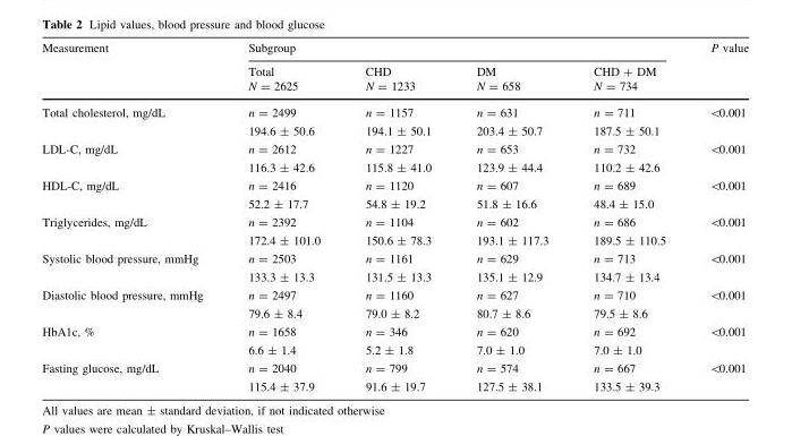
<table><thead><tr><td rowspan="2">Measurement</td><td colspan="4">Subgroup</td><td rowspan="2">P value</td></tr><tr><td>Total N = 2625</td><td>CHD N = 1233</td><td>DM N = 658</td><td>CHD + DM N = 734</td></tr></thead><tbody><tr><td rowspan="2">Total cholesterol, mg/dL</td><td>n = 2499</td><td>n = 1157</td><td>n = 631</td><td>n = 711</td><td rowspan="2">&lt;0.001</td></tr><tr><td>194.6 ± 50.6</td><td>194.1 ± 50.1</td><td>203.4 ± 50.7</td><td>187.5 ± 50.1</td></tr><tr><td rowspan="2">LDL-C, mg/dL</td><td>n = 2612</td><td>n = 1227</td><td>n = 653</td><td>n = 732</td><td rowspan="2">&lt;0.001</td></tr><tr><td>116.3 ± 42.6</td><td>115.8 ± 41.0</td><td>123.9 ± 44.4</td><td>110.2 ± 42.6</td></tr><tr><td rowspan="2">HDL-C, mg/dL</td><td>n = 2416</td><td>n = 1120</td><td>n = 607</td><td>n = 689</td><td rowspan="2">&lt;0.001</td></tr><tr><td>52.2 ± 17.7</td><td>54.8 ± 19.2</td><td>51.8 ± 16.6</td><td>48.4 ± 15.0</td></tr><tr><td rowspan="2">Triglycerides, mg/dL</td><td>n = 2392</td><td>n = 1104</td><td>n = 602</td><td>n = 686</td><td rowspan="2">&lt;0.001</td></tr><tr><td>172.4 ± 101.0</td><td>150.6 ± 78.3</td><td>193.1 ± 117.3</td><td>189.5 ± 110.5</td></tr><tr><td rowspan="2">Systolic blood pressure, mmHg</td><td>n = 2503</td><td>n = 1161</td><td>n = 629</td><td>n = 713</td><td rowspan="2">&lt;0.001</td></tr><tr><td>133.3 ± 13.3</td><td>131.5 ± 13.3</td><td>135.1 ± 12.9</td><td>134.7 ± 13.4</td></tr><tr><td rowspan="2">Diastolic blood pressure, mmHg</td><td>n = 2497</td><td>n = 1160</td><td>n = 627</td><td>n = 710</td><td rowspan="2">&lt;0.001</td></tr><tr><td>79.6 ± 8.4</td><td>79.0 ± 8.2</td><td>80.7 ± 8.6</td><td>79.5 ± 8.6</td></tr><tr><td rowspan="2">HbA1c, %</td><td>n = 1658</td><td>n = 346</td><td>n = 620</td><td>n = 692</td><td rowspan="2">&lt;0.001</td></tr><tr><td>6.6 ± 1.4</td><td>5.2 ± 1.8</td><td>7.0 ± 1.0</td><td>7.0 ± 1.0</td></tr><tr><td rowspan="2">Fasting glucose, mg/dL</td><td>n = 2040</td><td>n = 799</td><td>n = 574</td><td>n = 667</td><td rowspan="2">&lt;0.001</td></tr><tr><td>115.4 ± 37.9</td><td>91.6 ± 19.7</td><td>127.5 ± 38.1</td><td>133.5 ± 39.3</td></tr></tbody></table>